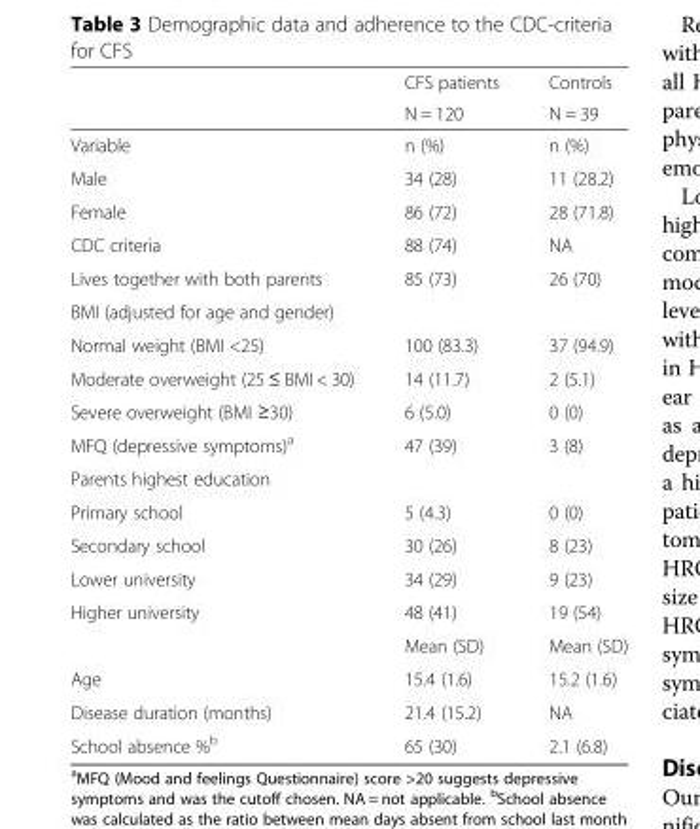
<table><thead><tr><td rowspan="2"></td><td rowspan="2">CFS patients N = 120</td><td rowspan="2">Controls N = 39</td></tr><tr></tr></thead><tbody><tr><td>Variable</td><td>n (%)</td><td>n (%)</td></tr><tr><td>Male</td><td>34 (28)</td><td>11 (28.2)</td></tr><tr><td>Female</td><td>86 (72)</td><td>28 (71.8)</td></tr><tr><td>CDC criteria</td><td>88 (74)</td><td>NA</td></tr><tr><td>Lives together with both parents</td><td>85 (73)</td><td>26 (70)</td></tr><tr><td colspan="3">BMI (adjusted for age and gender)</td></tr><tr><td>Normal weight (BMI &lt;25)</td><td>100 (83.3)</td><td>37 (94.9)</td></tr><tr><td>Moderate overweight (25 ≤ BMI &lt; 30)</td><td>14 (11.7)</td><td>2 (5.1)</td></tr><tr><td>Severe overweight (BMI ≥30)</td><td>6 (5.0)</td><td>0 (0)</td></tr><tr><td>MFQ (depressive symptoms)<sup>a</sup></td><td>47 (39)</td><td>3 (8)</td></tr><tr><td colspan="3">Parents highest education</td></tr><tr><td>Primary school</td><td>5 (4.3)</td><td>0 (0)</td></tr><tr><td>Secondary school</td><td>30 (26)</td><td>8 (23)</td></tr><tr><td>Lower university</td><td>34 (29)</td><td>9 (23)</td></tr><tr><td rowspan="2">Higher university</td><td>48 (41)</td><td>19 (54)</td></tr><tr><td>Mean (SD)</td><td>Mean (SD)</td></tr><tr><td>Age</td><td>15.4 (1.6)</td><td>15.2 (1.6)</td></tr><tr><td>Disease duration (months)</td><td>21.4 (15.2)</td><td>NA</td></tr><tr><td>School absence %<sup>b</sup></td><td>65 (30)</td><td>2.1 (6.8)</td></tr></tbody></table>